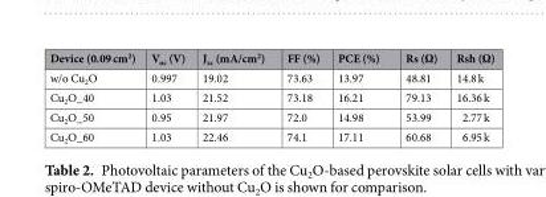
<table><thead><tr><td>Device (0.09 cm<sup>2</sup>)</td><td>V<sub>oc</sub> (V)</td><td>J<sub>sc</sub> (mA/cm<sup>2</sup>)</td><td>FF (%)</td><td>PCE (%)</td><td>Rs (Ω)</td><td>Rsh (Ω)</td></tr></thead><tbody><tr><td>w/o Cu<sub>2</sub>O</td><td>0.997</td><td>19.02</td><td>73.63</td><td>13.97</td><td>48.81</td><td>14.8 k</td></tr><tr><td>Cu<sub>2</sub>O_40</td><td>1.03</td><td>21.52</td><td>73.18</td><td>16.21</td><td>79.13</td><td>16.36 k</td></tr><tr><td>Cu<sub>2</sub>O_50</td><td>0.95</td><td>21.97</td><td>72.0</td><td>14.98</td><td>53.99</td><td>2.77 k</td></tr><tr><td>Cu<sub>2</sub>O_60</td><td>1.03</td><td>22.46</td><td>74.1</td><td>17.11</td><td>60.68</td><td>6.95 k</td></tr></tbody></table>